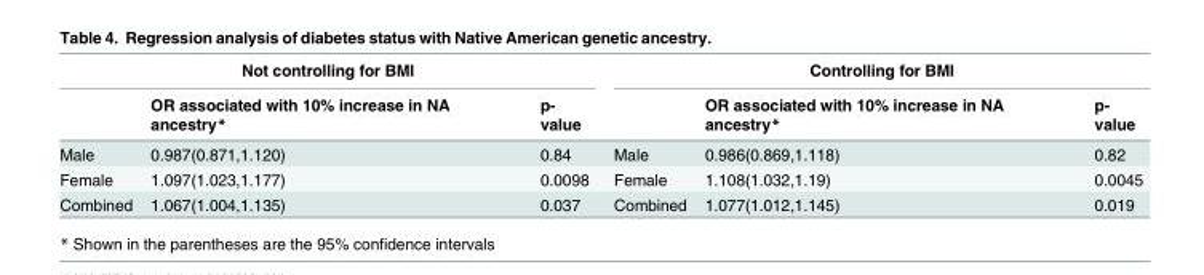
<table><thead><tr><td colspan="3">Not controlling for BMI</td><td colspan="3">Controlling for BMI</td></tr><tr><td></td><td>OR associated with 10% increase in NA ancestry*</td><td>p- value</td><td></td><td>OR associated with 10% increase in NA ancestry*</td><td>p- value</td></tr></thead><tbody><tr><td>Male</td><td>0.987(0.871,1.120)</td><td>0.84</td><td>Male</td><td>0.986(0.869,1.118)</td><td>0.82</td></tr><tr><td>Female</td><td>1.097(1.023,1.177)</td><td>0.0098</td><td>Female</td><td>1.108(1.032,1.19)</td><td>0.0045</td></tr><tr><td>Combined</td><td>1.067(1.004,1.135)</td><td>0.037</td><td>Combined</td><td>1.077(1.012,1.145)</td><td>0.019</td></tr></tbody></table>